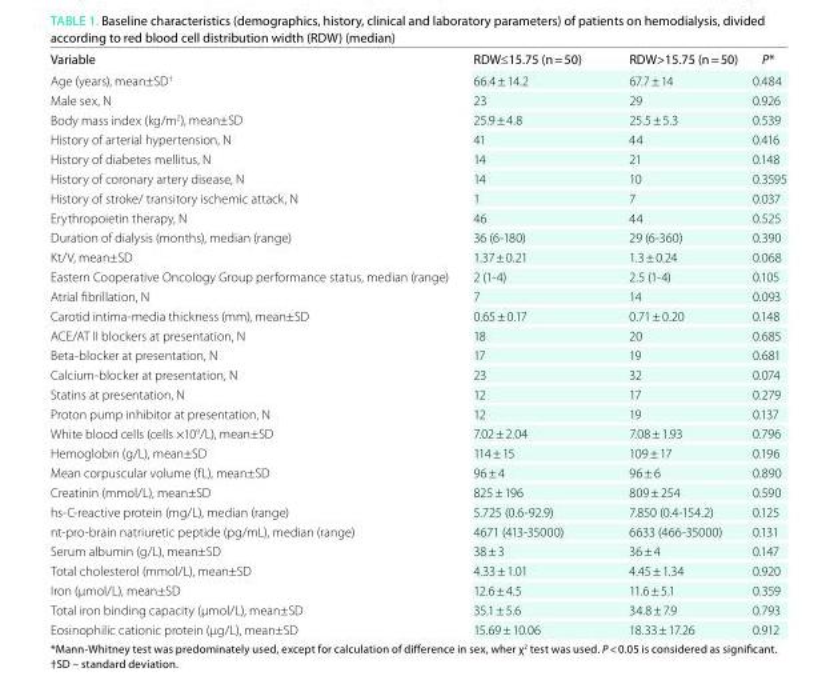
<table><thead><tr><td>Variable</td><td>RdW≤15.75 (n = 50)</td><td>RdW&gt;15.75 (n = 50)</td><td>P*</td></tr></thead><tbody><tr><td>Age (years), mean±SD<sup>†</sup></td><td>66.4 ± 14.2</td><td>67.7 ± 14</td><td>0.484</td></tr><tr><td>Male sex, N</td><td>23</td><td>29</td><td>0.926</td></tr><tr><td>Body mass index (kg/m<sup>2</sup>), mean±SD</td><td>25.9 ± 4.8</td><td>25.5 ± 5.3</td><td>0.539</td></tr><tr><td>History of arterial hypertension, N</td><td>41</td><td>44</td><td>0.416</td></tr><tr><td>History of diabetes mellitus, N</td><td>14</td><td>21</td><td>0.148</td></tr><tr><td>History of coronary artery disease, N</td><td>14</td><td>10</td><td>0.3595</td></tr><tr><td>History of stroke/ transitory ischemic attack, N</td><td>1</td><td>7</td><td>0.037</td></tr><tr><td>Erythropoietin therapy, N</td><td>46</td><td>44</td><td>0.525</td></tr><tr><td>Duration of dialysis (months), median (range)</td><td>36 (6-180)</td><td>29 (6-360)</td><td>0.390</td></tr><tr><td>Kt/V, mean±SD</td><td>1.37 ± 0.21</td><td>1.3 ± 0.24</td><td>0.068</td></tr><tr><td>Eastern Cooperative Oncology Group performance status, median (range)</td><td>2 (1-4)</td><td>2.5 (1-4)</td><td>0.105</td></tr><tr><td>Atrial fibrillation, N</td><td>7</td><td>14</td><td>0.093</td></tr><tr><td>Carotid intima-media thickness (mm), mean±SD</td><td>0.65 ± 0.17</td><td>0.71 ± 0.20</td><td>0.148</td></tr><tr><td>ACE/AT II blockers at presentation, N</td><td>18</td><td>20</td><td>0.685</td></tr><tr><td>Beta-blocker at presentation, N</td><td>17</td><td>19</td><td>0.681</td></tr><tr><td>Calcium-blocker at presentation, N</td><td>23</td><td>32</td><td>0.074</td></tr><tr><td>Statins at presentation, N</td><td>12</td><td>17</td><td>0.279</td></tr><tr><td>Proton pump inhibitor at presentation, N</td><td>12</td><td>19</td><td>0.137</td></tr><tr><td>White blood cells (cells ×10<sup>9</sup>/L), mean±SD</td><td>7.02 ± 2.04</td><td>7.08 ± 1.93</td><td>0.796</td></tr><tr><td>Hemoglobin (g/L), mean±SD</td><td>114 ± 15</td><td>109 ± 17</td><td>0.196</td></tr><tr><td>Mean corpuscular volume (fL), mean±SD</td><td>96 ± 4</td><td>96 ± 6</td><td>0.890</td></tr><tr><td>Creatinin (mmol/L), mean±SD</td><td>825 ± 196</td><td>809 ± 254</td><td>0.590</td></tr><tr><td>hs-C-reactive protein (mg/L), median (range)</td><td>5.725 (0.6-92.9)</td><td>7.850 (0.4-154.2)</td><td>0.125</td></tr><tr><td>nt-pro-brain natriuretic peptide (pg/mL), median (range)</td><td>4671 (413-35000)</td><td>6633 (466-35000)</td><td>0.131</td></tr><tr><td>Serum albumin (g/L), mean±SD</td><td>38 ± 3</td><td>36 ± 4</td><td>0.147</td></tr><tr><td>Total cholesterol (mmol/L), mean±SD</td><td>4.33 ± 1.01</td><td>4.45 ± 1.34</td><td>0.920</td></tr><tr><td>Iron (µmol/L), mean±SD</td><td>12.6 ± 4.5</td><td>11.6 ± 5.1</td><td>0.359</td></tr><tr><td>Total iron binding capacity (µmol/L), mean±SD</td><td>35.1 ± 5.6</td><td>34.8 ± 7.9</td><td>0.793</td></tr><tr><td>Eosinophilic cationic protein (µg/L), mean±SD</td><td>15.69 ± 10.06</td><td>18.33 ± 17.26</td><td>0.912</td></tr></tbody></table>